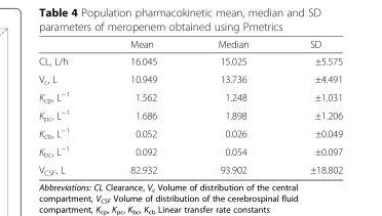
<table><thead><tr><td></td><td>Mean</td><td>Median</td><td>SD</td></tr></thead><tbody><tr><td>CL, L/h</td><td>16.045</td><td>15.025</td><td>±5.575</td></tr><tr><td>V<sub>c</sub>, L</td><td>10.949</td><td>13.736</td><td>±4.491</td></tr><tr><td>K<sub>cp</sub>, L<sup>−1</sup></td><td>1.562</td><td>1.248</td><td>±1.031</td></tr><tr><td>K<sub>pc</sub>, L<sup>−1</sup></td><td>1.686</td><td>1.898</td><td>±1.206</td></tr><tr><td>K<sub>cb</sub>, L<sup>−1</sup></td><td>0.052</td><td>0.026</td><td>±0.049</td></tr><tr><td>K<sub>bc</sub>, L<sup>−1</sup></td><td>0.092</td><td>0.054</td><td>±0.097</td></tr><tr><td>V<sub>CSF</sub>, L</td><td>82.932</td><td>93.902</td><td>±18.802</td></tr></tbody></table>